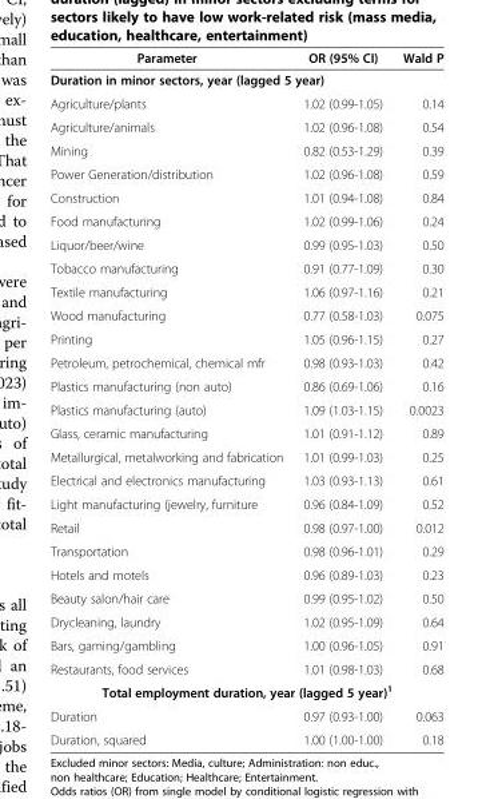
<table><thead><tr><td>Parameter</td><td>OR (95% CI)</td><td>Wald P</td></tr></thead><tbody><tr><td colspan="3">Duration in minor sectors, year (lagged 5 year)</td></tr><tr><td>Agriculture/plants</td><td>1.02 (0.99-1.05)</td><td>0.14</td></tr><tr><td>Agriculture/animals</td><td>1.02 (0.96-1.08)</td><td>0.54</td></tr><tr><td>Mining</td><td>0.82 (0.53-1.29)</td><td>0.39</td></tr><tr><td>Power Generation/distribution</td><td>1.02 (0.96-1.08)</td><td>0.59</td></tr><tr><td>Construction</td><td>1.01 (0.94-1.08)</td><td>0.84</td></tr><tr><td>Food manufacturing</td><td>1.02 (0.99-1.06)</td><td>0.24</td></tr><tr><td>Liquor/beer/wine</td><td>0.99 (0.95-1.03)</td><td>0.50</td></tr><tr><td>Tobacco manufacturing</td><td>0.91 (0.77-1.09)</td><td>0.30</td></tr><tr><td>Textile manufacturing</td><td>1.06 (0.97-1.16)</td><td>0.21</td></tr><tr><td>Wood manufacturing</td><td>0.77 (0.58-1.03)</td><td>0.075</td></tr><tr><td>Printing</td><td>1.05 (0.96-1.15)</td><td>0.27</td></tr><tr><td>Petroleum, petrochemical, chemical mfr</td><td>0.98 (0.93-1.03)</td><td>0.42</td></tr><tr><td>Plastics manufacturing (non auto)</td><td>0.86 (0.69-1.06)</td><td>0.16</td></tr><tr><td>Plastics manufacturing (auto)</td><td>1.09 (1.03-1.15)</td><td>0.0023</td></tr><tr><td>Glass, ceramic manufacturing</td><td>1.01 (0.91-1.12)</td><td>0.89</td></tr><tr><td>Metallurgical, metalworking and fabrication</td><td>1.01 (0.99-1.03)</td><td>0.25</td></tr><tr><td>Electrical and electronics manufacturing</td><td>1.03 (0.93-1.13)</td><td>0.61</td></tr><tr><td>Light manufacturing (jewelry, furniture</td><td>0.96 (0.84-1.09)</td><td>0.52</td></tr><tr><td>Retail</td><td>0.98 (0.97-1.00)</td><td>0.012</td></tr><tr><td>Transportation</td><td>0.98 (0.96-1.01)</td><td>0.29</td></tr><tr><td>Hotels and motels</td><td>0.96 (0.89-1.03)</td><td>0.23</td></tr><tr><td>Beauty salon/hair care</td><td>0.99 (0.95-1.02)</td><td>0.50</td></tr><tr><td>Drycleaning, laundry</td><td>1.02 (0.95-1.09)</td><td>0.64</td></tr><tr><td>Bars, gaming/gambling</td><td>1.00 (0.96-1.05)</td><td>0.91</td></tr><tr><td>Restaurants, food services</td><td>1.01 (0.98-1.03)</td><td>0.68</td></tr><tr><td colspan="3">Total employment duration, year (lagged 5 year)<sup>1</sup></td></tr><tr><td>Duration</td><td>0.97 (0.93-1.00)</td><td>0.063</td></tr><tr><td>Duration, squared</td><td>1.00 (1.00-1.00)</td><td>0.18</td></tr></tbody></table>